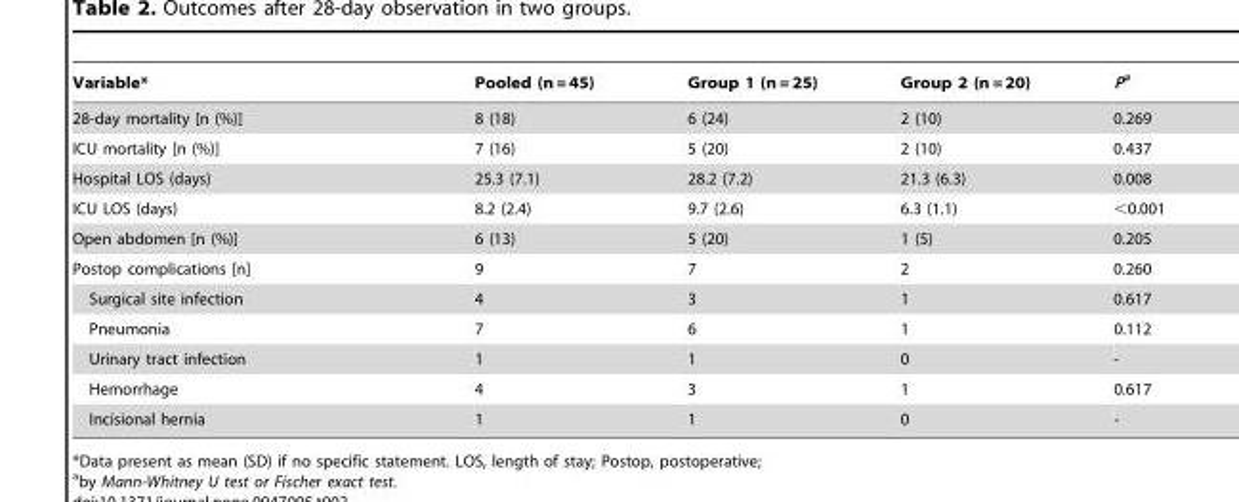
<table><thead><tr><td>Variable*</td><td>Pooled (n = 45)</td><td>Group 1 (n = 25)</td><td>Group 2 (n = 20)</td><td>Pa</td></tr></thead><tbody><tr><td>28-day mortality [n (%)]</td><td>8 (18)</td><td>6 (24)</td><td>2 (10)</td><td>0.269</td></tr><tr><td>ICU mortality [n (%)]</td><td>7 (16)</td><td>5 (20)</td><td>2 (10)</td><td>0.437</td></tr><tr><td>Hospital LOS (days)</td><td>25.3 (7.1)</td><td>28.2 (7.2)</td><td>21.3 (6.3)</td><td>0.008</td></tr><tr><td>ICU LOS (days)</td><td>8.2 (2.4)</td><td>9.7 (2.6)</td><td>6.3 (1.1)</td><td>&lt;0.001</td></tr><tr><td>Open abdomen [n (%)]</td><td>6 (13)</td><td>5 (20)</td><td>1 (5)</td><td>0.205</td></tr><tr><td>Postop complications [n]</td><td>9</td><td>7</td><td>2</td><td>0.260</td></tr><tr><td>Surgical site infection</td><td>4</td><td>3</td><td>1</td><td>0.617</td></tr><tr><td>Pneumonia</td><td>7</td><td>6</td><td>1</td><td>0.112</td></tr><tr><td>Urinary tract infection</td><td>1</td><td>1</td><td>0</td><td>-</td></tr><tr><td>Hemorrhage</td><td>4</td><td>3</td><td>1</td><td>0.617</td></tr><tr><td>Incisional hernia</td><td>1</td><td>1</td><td>0</td><td>-</td></tr></tbody></table>